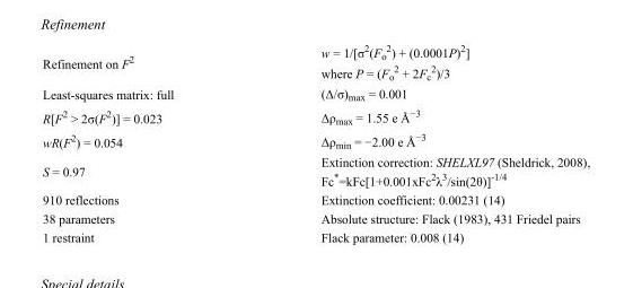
<table><tbody><tr><td>Refinement on F<sup>2</sup></td><td>w = 1/[σ<sup>2</sup>(F<sub>o</sub> <sup>2</sup>) + (0.0001P)<sup>2</sup>] where P = (F<sub>o</sub> <sup>2</sup> + 2F<sub>c</sub> <sup>2</sup>)/3</td></tr><tr><td>Least-squares matrix: full</td><td>(Δ/σ)<sub>max</sub> = 0.001</td></tr><tr><td>R[F<sup>2</sup> &gt; 2σ(F<sup>2</sup>)] = 0.023</td><td>Δρ<sub>max</sub> = 1.55 e Å<sup>−3</sup></td></tr><tr><td>wR(F<sup>2</sup>) = 0.054</td><td>Δρ<sub>min</sub> = −2.00 e Å<sup>−3</sup></td></tr><tr><td>S = 0.97</td><td>Extinction correction: SHELXL97 (Sheldrick, 2008), Fc*=kFc[1+0.001xFc<sup>2</sup>λ<sup>3</sup>/sin(2θ)]<sup>-1/4</sup></td></tr><tr><td>910 reflections</td><td>Extinction coefficient: 0.00231 (14)</td></tr><tr><td>38 parameters</td><td>Absolute structure: Flack (1983), 431 Friedel pairs</td></tr><tr><td>1 restraint</td><td>Flack parameter: 0.008 (14)</td></tr></tbody></table>